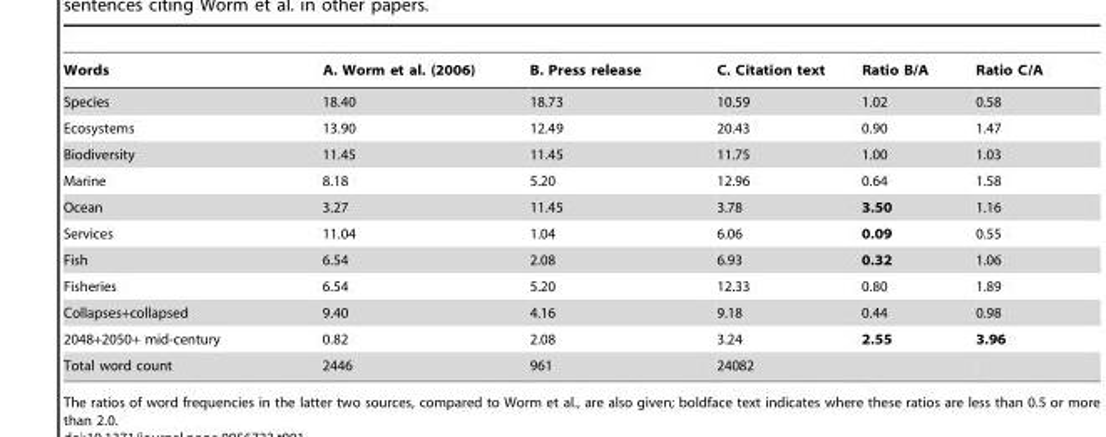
<table><thead><tr><td>Words</td><td>A. Worm et al. (2006)</td><td>B. Press release</td><td>C. Citation text</td><td>Ratio B/A</td><td>Ratio C/A</td></tr></thead><tbody><tr><td>Species</td><td>18.40</td><td>18.73</td><td>10.59</td><td>1.02</td><td>0.58</td></tr><tr><td>Ecosystems</td><td>13.90</td><td>12.49</td><td>20.43</td><td>0.90</td><td>1.47</td></tr><tr><td>Biodiversity</td><td>11.45</td><td>11.45</td><td>11.75</td><td>1.00</td><td>1.03</td></tr><tr><td>Marine</td><td>8.18</td><td>5.20</td><td>12.96</td><td>0.64</td><td>1.58</td></tr><tr><td>Ocean</td><td>3.27</td><td>11.45</td><td>3.78</td><td>3.50</td><td>1.16</td></tr><tr><td>Services</td><td>11.04</td><td>1.04</td><td>6.06</td><td>0.09</td><td>0.55</td></tr><tr><td>Fish</td><td>6.54</td><td>2.08</td><td>6.93</td><td>0.32</td><td>1.06</td></tr><tr><td>Fisheries</td><td>6.54</td><td>5.20</td><td>12.33</td><td>0.80</td><td>1.89</td></tr><tr><td>Collapses+collapsed</td><td>9.40</td><td>4.16</td><td>9.18</td><td>0.44</td><td>0.98</td></tr><tr><td>2048+2050+ mid-century</td><td>0.82</td><td>2.08</td><td>3.24</td><td>2.55</td><td>3.96</td></tr><tr><td>Total word count</td><td>2446</td><td>961</td><td>24082</td><td></td><td></td></tr></tbody></table>